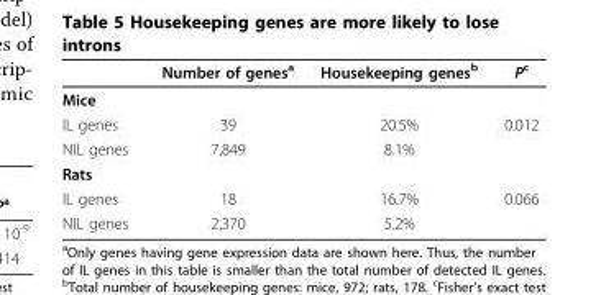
<table><thead><tr><td></td><td>Number of genes<sup>a</sup></td><td>Housekeeping genes<sup>b</sup></td><td>P<sup>c</sup></td></tr></thead><tbody><tr><td colspan="4">Mice</td></tr><tr><td>IL genes</td><td>39</td><td>20.5%</td><td>0.012</td></tr><tr><td>NIL genes</td><td>7,849</td><td>8.1%</td><td></td></tr><tr><td colspan="4">Rats</td></tr><tr><td>IL genes</td><td>18</td><td>16.7%</td><td>0.066</td></tr><tr><td>NIL genes</td><td>2,370</td><td>5.2%</td><td></td></tr></tbody></table>